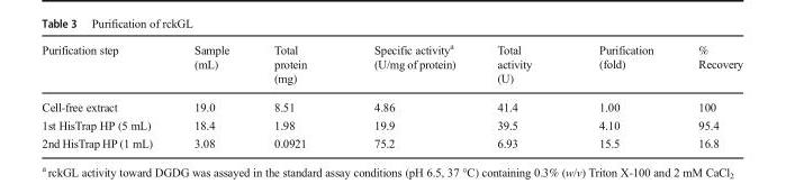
<table><thead><tr><td>Purification step</td><td>Sample (mL)</td><td>Total protein (mg)</td><td>Specific activity<sup>a</sup> (U/mg of protein)</td><td>Total activity (U)</td><td>Purification (fold)</td><td>% Recovery</td></tr></thead><tbody><tr><td>Cell-free extract</td><td>19.0</td><td>8.51</td><td>4.86</td><td>41.4</td><td>1.00</td><td>100</td></tr><tr><td>1st HisTrap HP (5 mL)</td><td>18.4</td><td>1.98</td><td>19.9</td><td>39.5</td><td>4.10</td><td>95.4</td></tr><tr><td>2nd HisTrap HP (1 mL)</td><td>3.08</td><td>0.0921</td><td>75.2</td><td>6.93</td><td>15.5</td><td>16.8</td></tr></tbody></table>